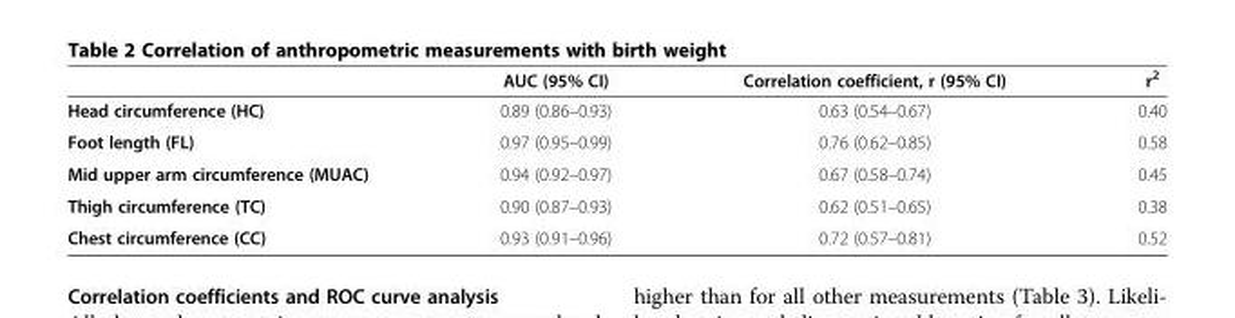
<table><thead><tr><td></td><td>AUC (95% CI)</td><td>Correlation coefficient, r (95% CI)</td><td>r<sup>2</sup></td></tr></thead><tbody><tr><td>Head circumference (HC)</td><td>0.89 (0.86–0.93)</td><td>0.63 (0.54–0.67)</td><td>0.40</td></tr><tr><td>Foot length (FL)</td><td>0.97 (0.95–0.99)</td><td>0.76 (0.62–0.85)</td><td>0.58</td></tr><tr><td>Mid upper arm circumference (MUAC)</td><td>0.94 (0.92–0.97)</td><td>0.67 (0.58–0.74)</td><td>0.45</td></tr><tr><td>Thigh circumference (TC)</td><td>0.90 (0.87–0.93)</td><td>0.62 (0.51–0.65)</td><td>0.38</td></tr><tr><td>Chest circumference (CC)</td><td>0.93 (0.91–0.96)</td><td>0.72 (0.57–0.81)</td><td>0.52</td></tr></tbody></table>